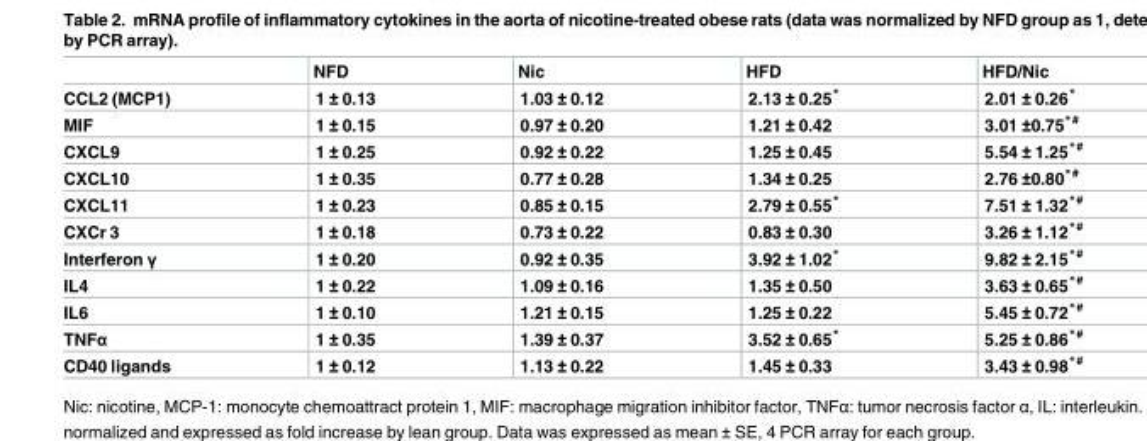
<table><thead><tr><td></td><td>NFD</td><td>Nic</td><td>HFD</td><td>HFD/Nic</td></tr></thead><tbody><tr><td>CCL2 (MCP1)</td><td>1 ± 0.13</td><td>1.03 ± 0.12</td><td>2.13 ± 0.25*</td><td>2.01 ± 0.26*</td></tr><tr><td>MIF</td><td>1 ± 0.15</td><td>0.97 ± 0.20</td><td>1.21 ± 0.42</td><td>3.01 ±0.75<sup>*#</sup></td></tr><tr><td>CXCL9</td><td>1 ± 0.25</td><td>0.92 ± 0.22</td><td>1.25 ± 0.45</td><td>5.54 ± 1.25<sup>*#</sup></td></tr><tr><td>CXCL10</td><td>1 ± 0.35</td><td>0.77 ± 0.28</td><td>1.34 ± 0.25</td><td>2.76 ±0.80<sup>*#</sup></td></tr><tr><td>CXCL11</td><td>1 ± 0.23</td><td>0.85 ± 0.15</td><td>2.79 ± 0.55*</td><td>7.51 ± 1.32<sup>*#</sup></td></tr><tr><td>CXCr 3</td><td>1 ± 0.18</td><td>0.73 ± 0.22</td><td>0.83 ± 0.30</td><td>3.26 ± 1.12<sup>*#</sup></td></tr><tr><td>Interferon γ</td><td>1 ± 0.20</td><td>0.92 ± 0.35</td><td>3.92 ± 1.02*</td><td>9.82 ± 2.15<sup>*#</sup></td></tr><tr><td>IL4</td><td>1 ± 0.22</td><td>1.09 ± 0.16</td><td>1.35 ± 0.50</td><td>3.63 ± 0.65<sup>*#</sup></td></tr><tr><td>IL6</td><td>1 ± 0.10</td><td>1.21 ± 0.15</td><td>1.25 ± 0.22</td><td>5.45 ± 0.72<sup>*#</sup></td></tr><tr><td>TNFα</td><td>1 ± 0.35</td><td>1.39 ± 0.37</td><td>3.52 ± 0.65*</td><td>5.25 ± 0.86<sup>*#</sup></td></tr><tr><td>CD40 ligands</td><td>1 ± 0.12</td><td>1.13 ± 0.22</td><td>1.45 ± 0.33</td><td>3.43 ± 0.98<sup>*#</sup></td></tr></tbody></table>